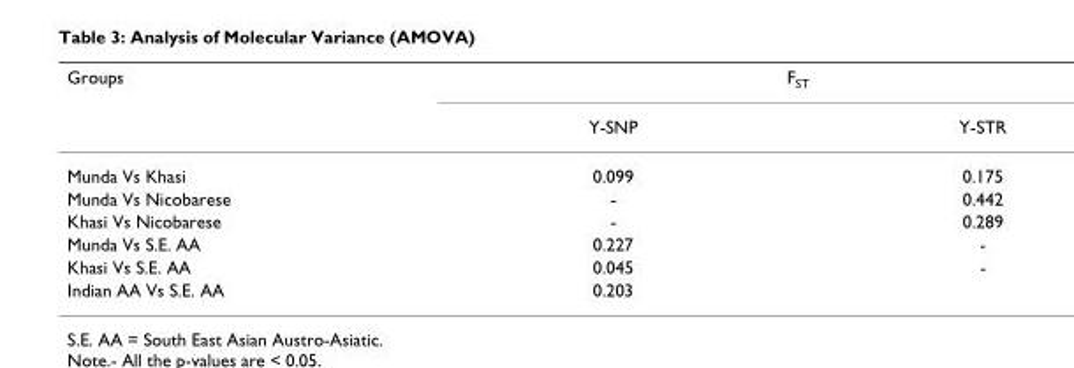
<table><thead><tr><td rowspan="2">Groups</td><td colspan="2">F<sub>ST</sub></td></tr><tr><td>Y-SNP</td><td>Y-STR</td></tr></thead><tbody><tr><td>Munda Vs Khasi</td><td>0.099</td><td>0.175</td></tr><tr><td>Munda Vs Nicobarese</td><td>-</td><td>0.442</td></tr><tr><td>Khasi Vs Nicobarese</td><td>-</td><td>0.289</td></tr><tr><td>Munda Vs S.E. AA</td><td>0.227</td><td>-</td></tr><tr><td>Khasi Vs S.E. AA</td><td>0.045</td><td>-</td></tr><tr><td>Indian AA Vs S.E. AA</td><td>0.203</td><td></td></tr></tbody></table>